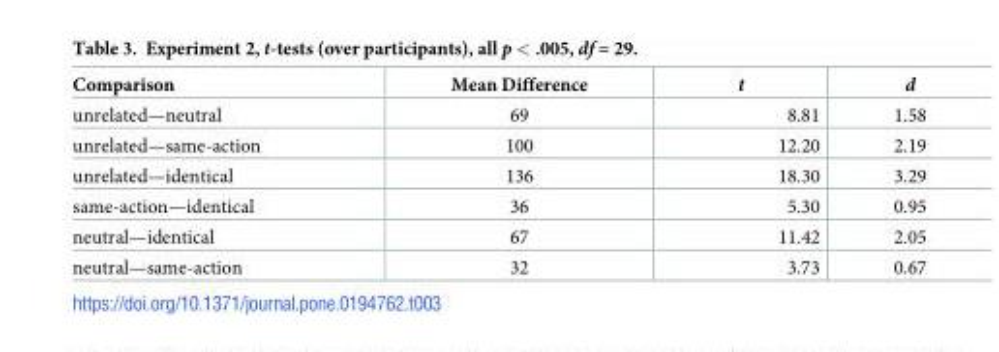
<table><thead><tr><td>Comparison</td><td>Mean Difference</td><td>t</td><td>d</td></tr></thead><tbody><tr><td>unrelated—neutral</td><td>69</td><td>8.81</td><td>1.58</td></tr><tr><td>unrelated—same-action</td><td>100</td><td>12.20</td><td>2.19</td></tr><tr><td>unrelated—identical</td><td>136</td><td>18.30</td><td>3.29</td></tr><tr><td>same-action—identical</td><td>36</td><td>5.30</td><td>0.95</td></tr><tr><td>neutral—identical</td><td>67</td><td>11.42</td><td>2.05</td></tr><tr><td>neutral—same-action</td><td>32</td><td>3.73</td><td>0.67</td></tr></tbody></table>